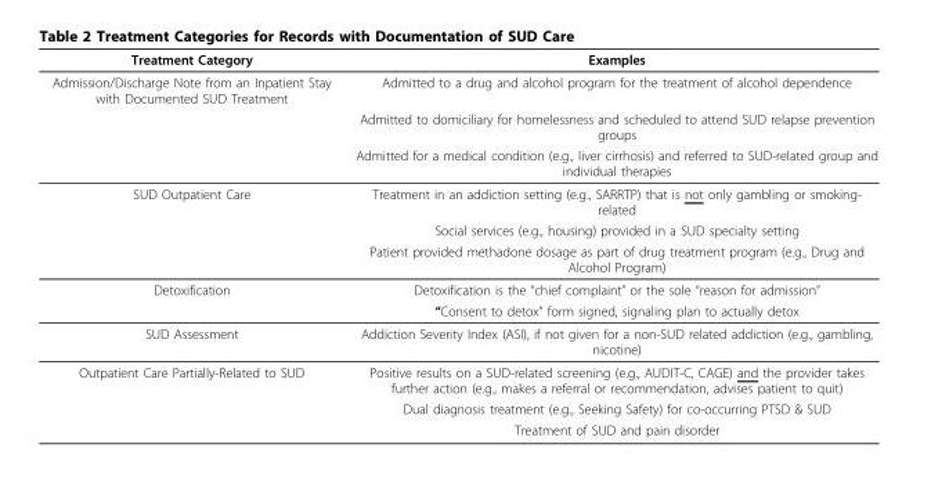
<table><thead><tr><td>Treatment Category</td><td>Examples</td></tr></thead><tbody><tr><td rowspan="3">Admission/Discharge Note from an Inpatient Stay with Documented SUD Treatment</td><td>Admitted to a drug and alcohol program for the treatment of alcohol dependence</td></tr><tr><td>Admitted to domiciliary for homelessness and scheduled to attend SUD relapse prevention groups</td></tr><tr><td>Admitted for a medical condition (e.g., liver cirrhosis) and referred to SUD-related group and individual therapies</td></tr><tr><td rowspan="3">SUD Outpatient Care</td><td>Treatment in an addiction setting (e.g., SARRTP) that is not only gambling or smoking- related</td></tr><tr><td>Social services (e.g., housing) provided in a SUD specialty setting</td></tr><tr><td>Patient provided methadone dosage as part of drug treatment program (e.g., Drug and Alcohol Program)</td></tr><tr><td rowspan="2">Detoxification</td><td>Detoxification is the “chief complaint” or the sole “reason for admission”</td></tr><tr><td>“Consent to detox” form signed, signaling plan to actually detox</td></tr><tr><td>SUD Assessment</td><td>Addiction Severity Index (ASI), if not given for a non-SUD related addiction (e.g., gambling, nicotine)</td></tr><tr><td rowspan="3">Outpatient Care Partially-Related to SUD</td><td>Positive results on a SUD-related screening (e.g., AUDIT-C, CAGE) and the provider takes further action (e.g., makes a referral or recommendation, advises patient to quit)</td></tr><tr><td>Dual diagnosis treatment (e.g., Seeking Safety) for co-occurring PTSD &amp; SUD</td></tr><tr><td>Treatment of SUD and pain disorder</td></tr></tbody></table>